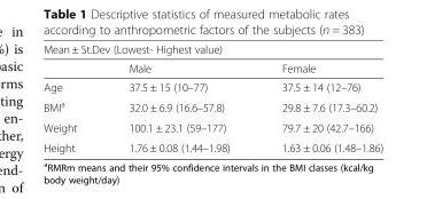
<table><thead><tr><td colspan="3">Mean ± St.Dev (Lowest- Highest value)</td></tr><tr><td></td><td>Male</td><td>Female</td></tr></thead><tbody><tr><td>Age</td><td>37.5 ± 15 (10–77)</td><td>37.5 ± 14 (12–76)</td></tr><tr><td>BMI<sup>a</sup></td><td>32.0 ± 6.9 (16.6–57.8)</td><td>29.8 ± 7.6 (17.3–60.2)</td></tr><tr><td>Weight</td><td>100.1 ± 23.1 (59–177)</td><td>79.7 ± 20 (42.7–166)</td></tr><tr><td>Height</td><td>1.76 ± 0.08 (1.44–1.98)</td><td>1.63 ± 0.06 (1.48–1.86)</td></tr></tbody></table>